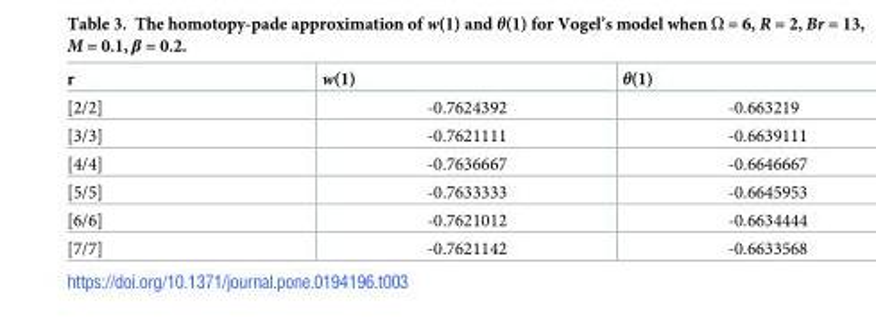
<table><thead><tr><td>r</td><td>w(1)</td><td>θ(1)</td></tr></thead><tbody><tr><td>[2/2]</td><td>-0.7624392</td><td>-0.663219</td></tr><tr><td>[3/3]</td><td>-0.7621111</td><td>-0.6639111</td></tr><tr><td>[4/4]</td><td>-0.7636667</td><td>-0.6646667</td></tr><tr><td>[5/5]</td><td>-0.7633333</td><td>-0.6645953</td></tr><tr><td>[6/6]</td><td>-0.7621012</td><td>-0.6634444</td></tr><tr><td>[7/7]</td><td>-0.7621142</td><td>-0.6633568</td></tr></tbody></table>